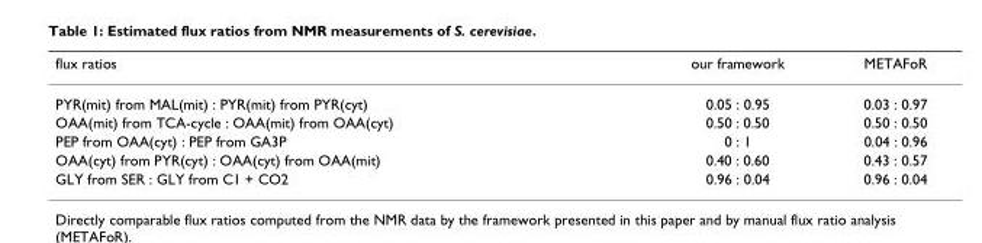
<table><thead><tr><td>flux ratios</td><td>our framework</td><td>METAFoR</td></tr></thead><tbody><tr><td>PYR(mit) from MAL(mit) : PYR(mit) from PYR(cyt)</td><td>0.05 : 0.95</td><td>0.03 : 0.97</td></tr><tr><td>OAA(mit) from TCA-cycle : OAA(mit) from OAA(cyt)</td><td>0.50 : 0.50</td><td>0.50 : 0.50</td></tr><tr><td>PEP from OAA(cyt) : PEP from GA3P</td><td>0 : 1</td><td>0.04 : 0.96</td></tr><tr><td>OAA(cyt) from PYR(cyt) : OAA(cyt) from OAA(mit)</td><td>0.40 : 0.60</td><td>0.43 : 0.57</td></tr><tr><td>GLY from SER : GLY from C1 + CO2</td><td>0.96 : 0.04</td><td>0.96 : 0.04</td></tr></tbody></table>